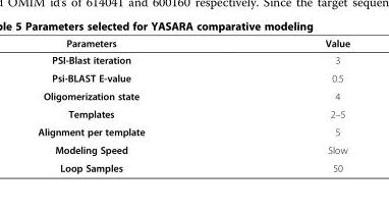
<table><thead><tr><td>Parameters</td><td>Value</td></tr></thead><tbody><tr><td>PSI-Blast iteration</td><td>3</td></tr><tr><td>Psi-BLAST E-value</td><td>0.5</td></tr><tr><td>Oligomerization state</td><td>4</td></tr><tr><td>Templates</td><td>2–5</td></tr><tr><td>Alignment per template</td><td>5</td></tr><tr><td>Modeling Speed</td><td>Slow</td></tr><tr><td>Loop Samples</td><td>50</td></tr></tbody></table>